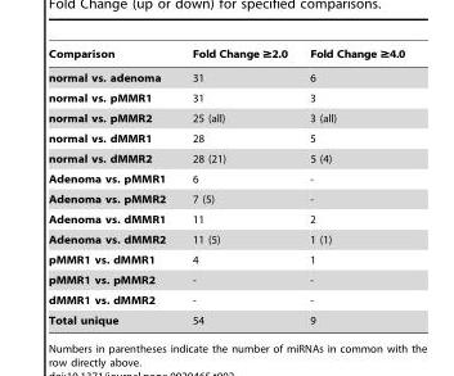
<table><thead><tr><td>Comparison</td><td>Fold Change ≥2.0</td><td>Fold Change ≥4.0</td></tr></thead><tbody><tr><td>normal vs. adenoma</td><td>31</td><td>6</td></tr><tr><td>normal vs. pMMR1</td><td>31</td><td>3</td></tr><tr><td>normal vs. pMMR2</td><td>25 (all)</td><td>3 (all)</td></tr><tr><td>normal vs. dMMR1</td><td>28</td><td>5</td></tr><tr><td>normal vs. dMMR2</td><td>28 (21)</td><td>5 (4)</td></tr><tr><td>Adenoma vs. pMMR1</td><td>6</td><td>-</td></tr><tr><td>Adenoma vs. pMMR2</td><td>7 (5)</td><td>-</td></tr><tr><td>Adenoma vs. dMMR1</td><td>11</td><td>2</td></tr><tr><td>Adenoma vs. dMMR2</td><td>11 (5)</td><td>1 (1)</td></tr><tr><td>pMMR1 vs. dMMR1</td><td>4</td><td>1</td></tr><tr><td>pMMR1 vs. pMMR2</td><td>-</td><td>-</td></tr><tr><td>dMMR1 vs. dMMR2</td><td>-</td><td>-</td></tr><tr><td>Total unique</td><td>54</td><td>9</td></tr></tbody></table>